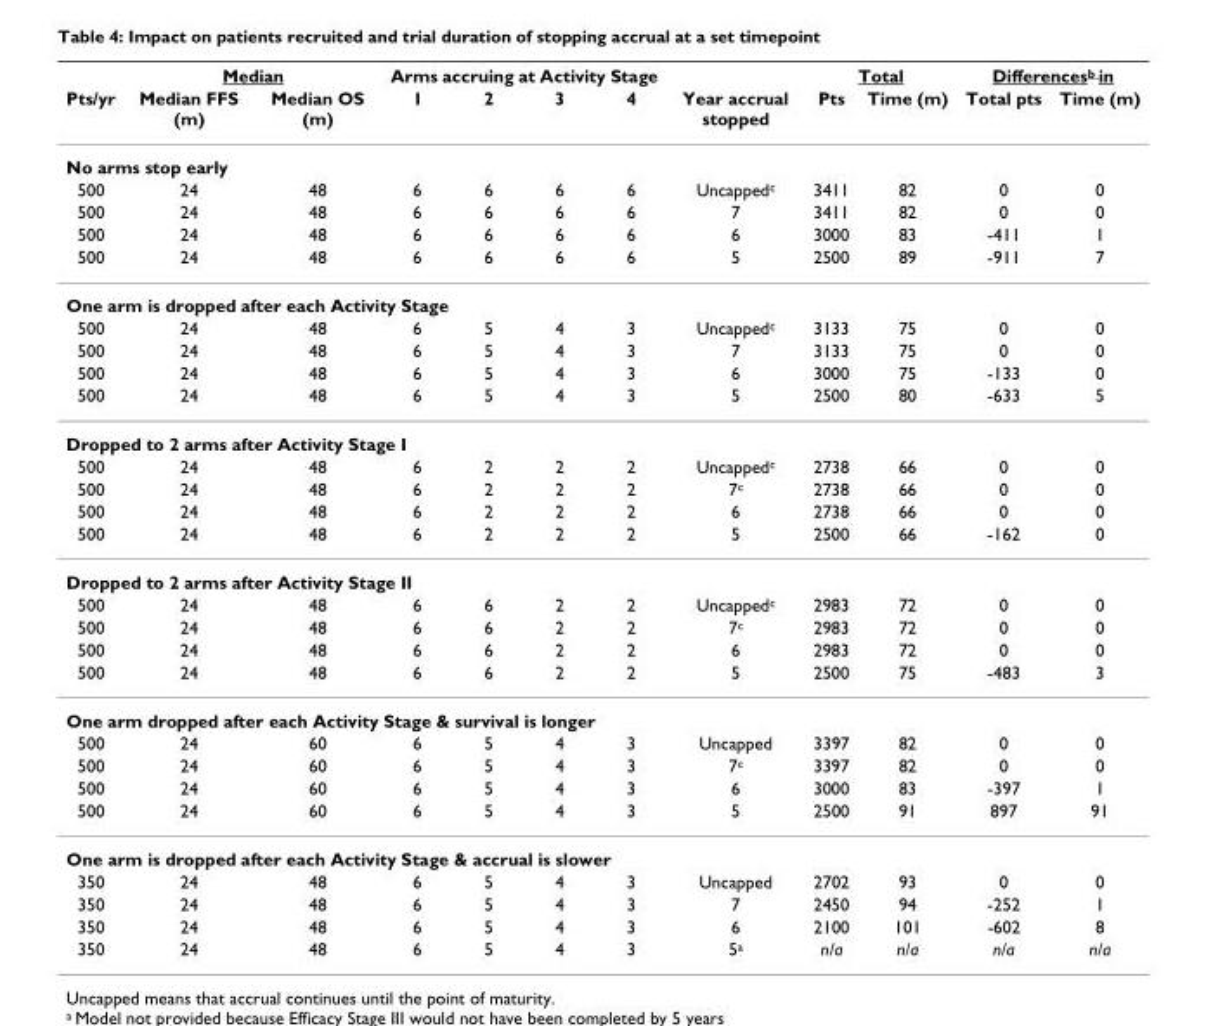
<table><thead><tr><td rowspan="2">Pts/yr</td><td colspan="2">Median</td><td colspan="4">Arms accruing at Activity Stage</td><td rowspan="2">Year accrual stopped</td><td colspan="2">Total</td><td colspan="2">Differencesb in</td></tr><tr><td>Median FFS (m)</td><td>Median OS (m)</td><td>1</td><td>2</td><td>3</td><td>4</td><td>Pts</td><td>Time (m)</td><td>Total pts</td><td>Time (m)</td></tr></thead><tbody><tr><td colspan="12">No arms stop early</td></tr><tr><td>500</td><td>24</td><td>48</td><td>6</td><td>6</td><td>6</td><td>6</td><td>Uncapped<sup>c</sup></td><td>3411</td><td>82</td><td>0</td><td>0</td></tr><tr><td>500</td><td>24</td><td>48</td><td>6</td><td>6</td><td>6</td><td>6</td><td>7</td><td>3411</td><td>82</td><td>0</td><td>0</td></tr><tr><td>500</td><td>24</td><td>48</td><td>6</td><td>6</td><td>6</td><td>6</td><td>6</td><td>3000</td><td>83</td><td>-411</td><td>1</td></tr><tr><td>500</td><td>24</td><td>48</td><td>6</td><td>6</td><td>6</td><td>6</td><td>5</td><td>2500</td><td>89</td><td>-911</td><td>7</td></tr><tr><td colspan="12">One arm is dropped after each Activity Stage</td></tr><tr><td>500</td><td>24</td><td>48</td><td>6</td><td>5</td><td>4</td><td>3</td><td>Uncapped<sup>c</sup></td><td>3133</td><td>75</td><td>0</td><td>0</td></tr><tr><td>500</td><td>24</td><td>48</td><td>6</td><td>5</td><td>4</td><td>3</td><td>7</td><td>3133</td><td>75</td><td>0</td><td>0</td></tr><tr><td>500</td><td>24</td><td>48</td><td>6</td><td>5</td><td>4</td><td>3</td><td>6</td><td>3000</td><td>75</td><td>-133</td><td>0</td></tr><tr><td>500</td><td>24</td><td>48</td><td>6</td><td>5</td><td>4</td><td>3</td><td>5</td><td>2500</td><td>80</td><td>-633</td><td>5</td></tr><tr><td colspan="12">Dropped to 2 arms after Activity Stage I</td></tr><tr><td>500</td><td>24</td><td>48</td><td>6</td><td>2</td><td>2</td><td>2</td><td>Uncapped<sup>c</sup></td><td>2738</td><td>66</td><td>0</td><td>0</td></tr><tr><td>500</td><td>24</td><td>48</td><td>6</td><td>2</td><td>2</td><td>2</td><td>7<sup>c</sup></td><td>2738</td><td>66</td><td>0</td><td>0</td></tr><tr><td>500</td><td>24</td><td>48</td><td>6</td><td>2</td><td>2</td><td>2</td><td>6</td><td>2738</td><td>66</td><td>0</td><td>0</td></tr><tr><td>500</td><td>24</td><td>48</td><td>6</td><td>2</td><td>2</td><td>2</td><td>5</td><td>2500</td><td>66</td><td>-162</td><td>0</td></tr><tr><td colspan="12">Dropped to 2 arms after Activity Stage II</td></tr><tr><td>500</td><td>24</td><td>48</td><td>6</td><td>6</td><td>2</td><td>2</td><td>Uncapped<sup>c</sup></td><td>2983</td><td>72</td><td>0</td><td>0</td></tr><tr><td>500</td><td>24</td><td>48</td><td>6</td><td>6</td><td>2</td><td>2</td><td>7<sup>c</sup></td><td>2983</td><td>72</td><td>0</td><td>0</td></tr><tr><td>500</td><td>24</td><td>48</td><td>6</td><td>6</td><td>2</td><td>2</td><td>6</td><td>2983</td><td>72</td><td>0</td><td>0</td></tr><tr><td>500</td><td>24</td><td>48</td><td>6</td><td>6</td><td>2</td><td>2</td><td>5</td><td>2500</td><td>75</td><td>-483</td><td>3</td></tr><tr><td colspan="12">One arm dropped after each Activity Stage &amp; survival is longer</td></tr><tr><td>500</td><td>24</td><td>60</td><td>6</td><td>5</td><td>4</td><td>3</td><td>Uncapped</td><td>3397</td><td>82</td><td>0</td><td>0</td></tr><tr><td>500</td><td>24</td><td>60</td><td>6</td><td>5</td><td>4</td><td>3</td><td>7<sup>c</sup></td><td>3397</td><td>82</td><td>0</td><td>0</td></tr><tr><td>500</td><td>24</td><td>60</td><td>6</td><td>5</td><td>4</td><td>3</td><td>6</td><td>3000</td><td>83</td><td>-397</td><td>1</td></tr><tr><td>500</td><td>24</td><td>60</td><td>6</td><td>5</td><td>4</td><td>3</td><td>5</td><td>2500</td><td>91</td><td>897</td><td>91</td></tr><tr><td colspan="12">One arm is dropped after each Activity Stage &amp; accrual is slower</td></tr><tr><td>350</td><td>24</td><td>48</td><td>6</td><td>5</td><td>4</td><td>3</td><td>Uncapped</td><td>2702</td><td>93</td><td>0</td><td>0</td></tr><tr><td>350</td><td>24</td><td>48</td><td>6</td><td>5</td><td>4</td><td>3</td><td>7</td><td>2450</td><td>94</td><td>-252</td><td>1</td></tr><tr><td>350</td><td>24</td><td>48</td><td>6</td><td>5</td><td>4</td><td>3</td><td>6</td><td>2100</td><td>101</td><td>-602</td><td>8</td></tr><tr><td>350</td><td>24</td><td>48</td><td>6</td><td>5</td><td>4</td><td>3</td><td>5<sup>a</sup></td><td>n/a</td><td>n/a</td><td>n/a</td><td>n/a</td></tr></tbody></table>